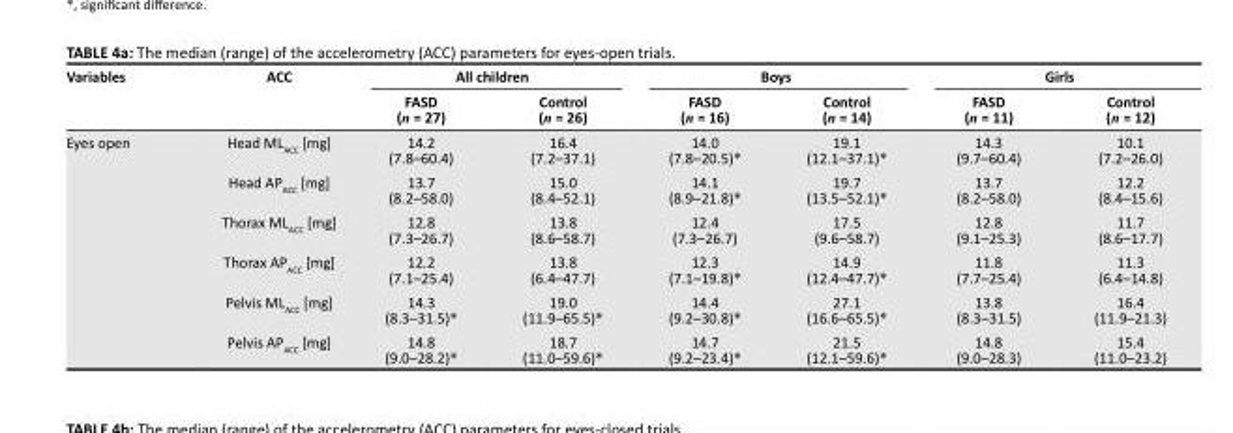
<table><thead><tr><td rowspan="2">Variables</td><td rowspan="2">ACC</td><td colspan="2">All children</td><td colspan="2">Boys</td><td colspan="2">Girls</td></tr><tr><td>FASD (n = 27)</td><td>Control (n = 26)</td><td>FASD (n = 16)</td><td>Control (n = 14)</td><td>FASD (n = 11)</td><td>Control (n = 12)</td></tr></thead><tbody><tr><td rowspan="6">Eyes open</td><td>Head ML<sub>ACC</sub> [mg]</td><td>14.2 (7.8–60.4)</td><td>16.4 (7.2–37.1)</td><td>14.0 (7.8–20.5)*</td><td>19.1 (12.1–37.1)*</td><td>14.3 (9.7–60.4)</td><td>10.1 (7.2–26.0)</td></tr><tr><td>Head AP<sub>ACC</sub> [mg]</td><td>13.7 (8.2–58.0)</td><td>15.0 (8.4–52.1)</td><td>14.1 (8.9–21.8)*</td><td>19.7 (13.5–52.1)*</td><td>13.7 (8.2–58.0)</td><td>12.2 (8.4–15.6)</td></tr><tr><td>Thorax ML<sub>ACC</sub> [mg]</td><td>12.8 (7.3–26.7)</td><td>13.8 (8.6–58.7)</td><td>12.4 (7.3–26.7)</td><td>17.5 (9.6–58.7)</td><td>12.8 (9.1–25.3)</td><td>11.7 (8.6–17.7)</td></tr><tr><td>Thorax AP<sub>ACC</sub> [mg]</td><td>12.2 (7.1–25.4)</td><td>13.8 (6.4–47.7)</td><td>12.3 (7.1–19.8)*</td><td>14.9 (12.4–47.7)*</td><td>11.8 (7.7–25.4)</td><td>11.3 (6.4–14.8)</td></tr><tr><td>Pelvis ML<sub>ACC</sub> [mg]</td><td>14.3 (8.3–31.5)*</td><td>19.0 (11.9–65.5)*</td><td>14.4 (9.2–30.8)*</td><td>27.1 (16.6–65.5)*</td><td>13.8 (8.3–31.5)</td><td>16.4 (11.9–21.3)</td></tr><tr><td>Pelvis AP<sub>ACC</sub> [mg]</td><td>14.8 (9.0–28.2)*</td><td>18.7 (11.0–59.6)*</td><td>14.7 (9.2–23.4)*</td><td>21.5 (12.1–59.6)*</td><td>14.8 (9.0–28.3)</td><td>15.4 (11.0–23.2)</td></tr></tbody></table>